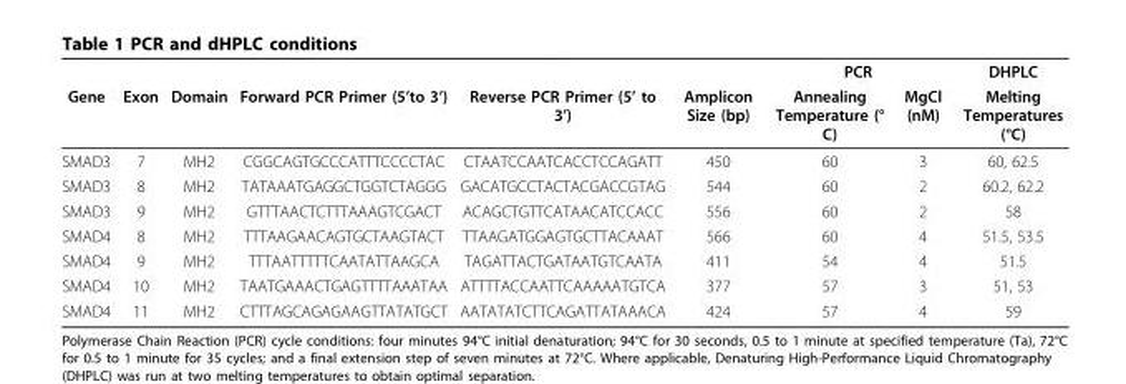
<table><thead><tr><td rowspan="2">Gene</td><td rowspan="2">Exon</td><td rowspan="2">Domain</td><td rowspan="2">Forward PCR Primer (5’to 3’)</td><td rowspan="2">Reverse PCR Primer (5’ to 3’)</td><td rowspan="2">Amplicon Size (bp)</td><td colspan="2">PCR</td><td rowspan="2">DHPLC Melting Temperatures (°C)</td></tr><tr><td>Annealing Temperature (° C)</td><td>MgCl (nM)</td></tr></thead><tbody><tr><td>SMAD3</td><td>7</td><td>MH2</td><td>CGGCAGTGCCCATTTCCCCTAC</td><td>CTAATCCAATCACCTCCAGATT</td><td>450</td><td>60</td><td>3</td><td>60, 62.5</td></tr><tr><td>SMAD3</td><td>8</td><td>MH2</td><td>TATAAATGAGGCTGGTCTAGGG</td><td>GACATGCCTACTACGACCGTAG</td><td>544</td><td>60</td><td>2</td><td>60.2, 62.2</td></tr><tr><td>SMAD3</td><td>9</td><td>MH2</td><td>GTTTAACTCTTTAAAGTCGACT</td><td>ACAGCTGTTCATAACATCCACC</td><td>556</td><td>60</td><td>2</td><td>58</td></tr><tr><td>SMAD4</td><td>8</td><td>MH2</td><td>TTTAAGAACAGTGCTAAGTACT</td><td>TTAAGATGGAGTGCTTACAAAT</td><td>566</td><td>60</td><td>4</td><td>51.5, 53.5</td></tr><tr><td>SMAD4</td><td>9</td><td>MH2</td><td>TTTAATTTTTCAATATTAAGCA</td><td>TAGATTACTGATAATGTCAATA</td><td>411</td><td>54</td><td>4</td><td>51.5</td></tr><tr><td>SMAD4</td><td>10</td><td>MH2</td><td>TAATGAAACTGAGTTTTAAATAA</td><td>ATTTTACCAATTCAAAAATGTCA</td><td>377</td><td>57</td><td>3</td><td>51, 53</td></tr><tr><td>SMAD4</td><td>11</td><td>MH2</td><td>CTTTAGCAGAGAAGTTATATGCT</td><td>AATATATCTTCAGATTATAAACA</td><td>424</td><td>57</td><td>4</td><td>59</td></tr></tbody></table>